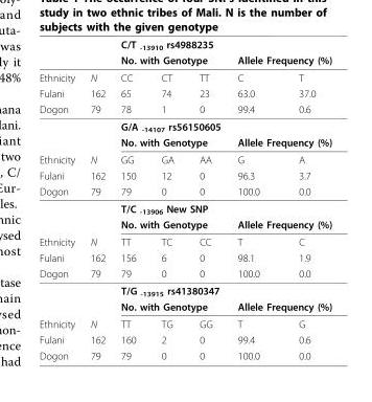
<table><thead><tr><td rowspan="3">Ethnicity</td><td rowspan="3">N</td><td colspan="5">C/T <sub>-13910</sub> rs4988235</td></tr><tr><td colspan="3">No. with Genotype</td><td colspan="2">Allele Frequency (%)</td></tr><tr><td>CC</td><td>CT</td><td>TT</td><td>C</td><td>T</td></tr></thead><tbody><tr><td>Fulani</td><td>162</td><td>65</td><td>74</td><td>23</td><td>63.0</td><td>37.0</td></tr><tr><td rowspan="3">Dogon</td><td>79</td><td>78</td><td>1</td><td>0</td><td>99.4</td><td>0.6</td></tr><tr><td></td><td colspan="5">G/A <sub>-14107</sub> rs56150605</td></tr><tr><td></td><td colspan="3">No. with Genotype</td><td colspan="2">Allele Frequency (%)</td></tr><tr><td>Ethnicity</td><td>N</td><td>GG</td><td>GA</td><td>AA</td><td>G</td><td>A</td></tr><tr><td>Fulani</td><td>162</td><td>150</td><td>12</td><td>0</td><td>96.3</td><td>3.7</td></tr><tr><td rowspan="3">Dogon</td><td>79</td><td>79</td><td>0</td><td>0</td><td>100.0</td><td>0.0</td></tr><tr><td></td><td colspan="5">T/C <sub>-13906</sub> New SNP</td></tr><tr><td></td><td colspan="3">No. with Genotype</td><td colspan="2">Allele Frequency (%)</td></tr><tr><td>Ethnicity</td><td>N</td><td>TT</td><td>TC</td><td>CC</td><td>T</td><td>C</td></tr><tr><td>Fulani</td><td>162</td><td>156</td><td>6</td><td>0</td><td>98.1</td><td>1.9</td></tr><tr><td rowspan="3">Dogon</td><td>79</td><td>79</td><td>0</td><td>0</td><td>100.0</td><td>0.0</td></tr><tr><td></td><td colspan="5">T/G <sub>-13915</sub> rs41380347</td></tr><tr><td></td><td colspan="3">No. with Genotype</td><td colspan="2">Allele Frequency (%)</td></tr><tr><td>Ethnicity</td><td>N</td><td>TT</td><td>TG</td><td>GG</td><td>T</td><td>G</td></tr><tr><td>Fulani</td><td>162</td><td>160</td><td>2</td><td>0</td><td>99.4</td><td>0.6</td></tr><tr><td>Dogon</td><td>79</td><td>79</td><td>0</td><td>0</td><td>100.0</td><td>0.0</td></tr></tbody></table>